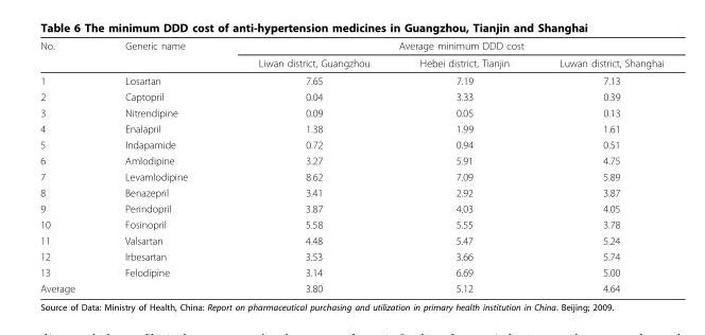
<table><thead><tr><td rowspan="2">No.</td><td rowspan="2">Generic name</td><td colspan="3">Average minimum DDD cost</td></tr><tr><td>Liwan district, Guangzhou</td><td>Hebei district, Tianjin</td><td>Luwan district, Shanghai</td></tr></thead><tbody><tr><td>1</td><td>Losartan</td><td>7.65</td><td>7.19</td><td>7.13</td></tr><tr><td>2</td><td>Captopril</td><td>0.04</td><td>3.33</td><td>0.39</td></tr><tr><td>3</td><td>Nitrendipine</td><td>0.09</td><td>0.05</td><td>0.13</td></tr><tr><td>4</td><td>Enalapril</td><td>1.38</td><td>1.99</td><td>1.61</td></tr><tr><td>5</td><td>Indapamide</td><td>0.72</td><td>0.94</td><td>0.51</td></tr><tr><td>6</td><td>Amlodipine</td><td>3.27</td><td>5.91</td><td>4.75</td></tr><tr><td>7</td><td>Levamlodipine</td><td>8.62</td><td>7.09</td><td>5.89</td></tr><tr><td>8</td><td>Benazepril</td><td>3.41</td><td>2.92</td><td>3.87</td></tr><tr><td>9</td><td>Perindopril</td><td>3.87</td><td>4.03</td><td>4.05</td></tr><tr><td>10</td><td>Fosinopril</td><td>5.58</td><td>5.55</td><td>3.78</td></tr><tr><td>11</td><td>Valsartan</td><td>4.48</td><td>5.47</td><td>5.24</td></tr><tr><td>12</td><td>Irbesartan</td><td>3.53</td><td>3.66</td><td>5.74</td></tr><tr><td>13</td><td>Felodipine</td><td>3.14</td><td>6.69</td><td>5.00</td></tr><tr><td>Average</td><td></td><td>3.80</td><td>5.12</td><td>4.64</td></tr></tbody></table>